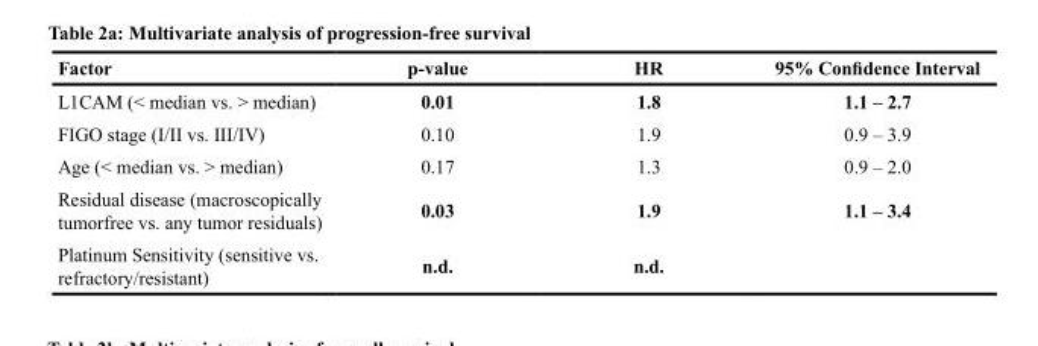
<table><thead><tr><td>Factor</td><td>p-value</td><td>HR</td><td>95% Confidence Interval</td></tr></thead><tbody><tr><td>L1CAM (&lt; median vs. &gt; median)</td><td>0.01</td><td>1.8</td><td>1.1 – 2.7</td></tr><tr><td>FIGO stage (I/II vs. III/IV)</td><td>0.10</td><td>1.9</td><td>0.9 – 3.9</td></tr><tr><td>Age (&lt; median vs. &gt; median)</td><td>0.17</td><td>1.3</td><td>0.9 – 2.0</td></tr><tr><td>Residual disease (macroscopically tumorfree vs. any tumor residuals)</td><td>0.03</td><td>1.9</td><td>1.1 – 3.4</td></tr><tr><td>Platinum Sensitivity (sensitive vs. refractory/resistant)</td><td>n.d.</td><td>n.d.</td><td></td></tr></tbody></table>